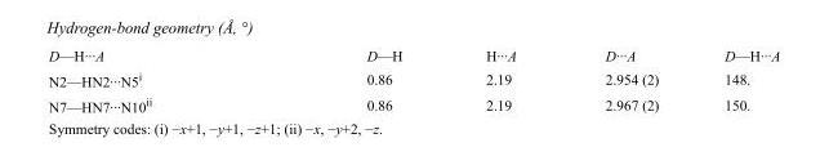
<table><tbody><tr><td>D—H···A</td><td>D—H</td><td>H···A</td><td>D···A</td><td>D—H···A</td></tr><tr><td>N2—HN2···N5<sup>i</sup></td><td>0.86</td><td>2.19</td><td>2.954 (2)</td><td>148.</td></tr><tr><td>N7—HN7···N10<sup>ii</sup></td><td>0.86</td><td>2.19</td><td>2.967 (2)</td><td>150.</td></tr></tbody></table>